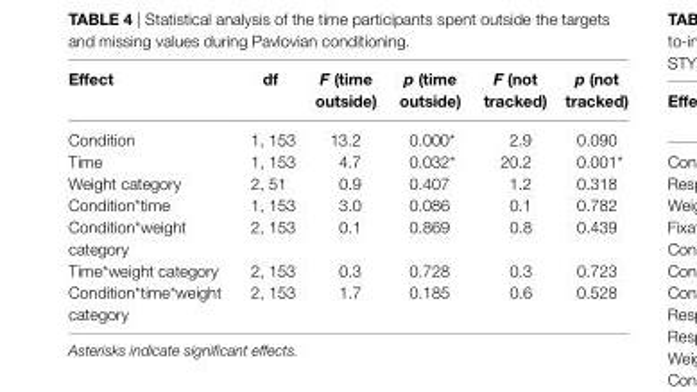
<table><thead><tr><td>effect</td><td>df</td><td>F (time outside)</td><td>p (time outside)</td><td>F (not tracked)</td><td>p (not tracked)</td></tr></thead><tbody><tr><td>Condition</td><td>1, 153</td><td>13.2</td><td>0.000*</td><td>2.9</td><td>0.090</td></tr><tr><td>Time</td><td>1, 153</td><td>4.7</td><td>0.032*</td><td>20.2</td><td>0.001*</td></tr><tr><td>Weight category</td><td>2, 51</td><td>0.9</td><td>0.407</td><td>1.2</td><td>0.318</td></tr><tr><td>Condition*time</td><td>1, 153</td><td>3.0</td><td>0.086</td><td>0.1</td><td>0.782</td></tr><tr><td>Condition*weight category</td><td>2, 153</td><td>0.1</td><td>0.869</td><td>0.8</td><td>0.439</td></tr><tr><td>Time*weight category</td><td>2, 153</td><td>0.3</td><td>0.728</td><td>0.3</td><td>0.723</td></tr><tr><td>Condition*time*weight category</td><td>2, 153</td><td>1.7</td><td>0.185</td><td>0.6</td><td>0.528</td></tr></tbody></table>